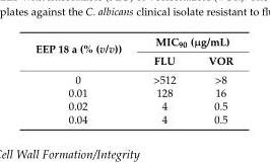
<table><thead><tr><td rowspan="2">EEP 18 a (% (v/v))</td><td colspan="2">MIC<sub>90</sub> (µg/mL)</td></tr><tr><td>FLU</td><td>VOR</td></tr></thead><tbody><tr><td>0</td><td>&gt;512</td><td>&gt;8</td></tr><tr><td>0.01</td><td>128</td><td>16</td></tr><tr><td>0.02</td><td>4</td><td>0.5</td></tr><tr><td>0.04</td><td>4</td><td>0.5</td></tr></tbody></table>